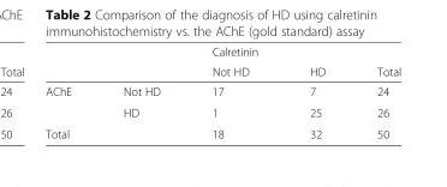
<table><thead><tr><td rowspan="2"></td><td rowspan="2"></td><td rowspan="2">Calretinin Not HD</td><td rowspan="2">HD</td><td rowspan="2">Total</td></tr><tr></tr></thead><tbody><tr><td rowspan="2">AChE</td><td>Not HD</td><td>17</td><td>7</td><td>24</td></tr><tr><td>HD</td><td>1</td><td>25</td><td>26</td></tr><tr><td>Total</td><td></td><td>18</td><td>32</td><td>50</td></tr></tbody></table>